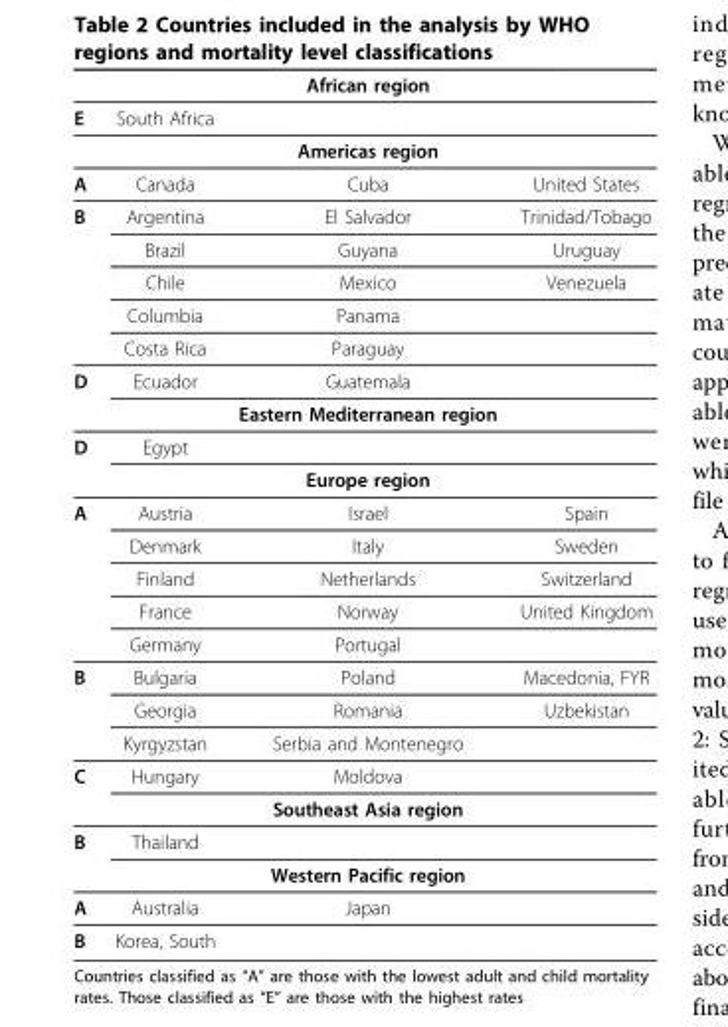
<table><thead><tr><td></td><td></td><td>African region</td><td></td></tr></thead><tbody><tr><td rowspan="2">E</td><td>South Africa</td><td></td><td></td></tr><tr><td></td><td>Americas region</td><td></td></tr><tr><td>A</td><td>Canada</td><td>Cuba</td><td>United States</td></tr><tr><td rowspan="5">B</td><td>Argentina</td><td>El Salvador</td><td>Trinidad/Tobago</td></tr><tr><td>Brazil</td><td>Guyana</td><td>Uruguay</td></tr><tr><td>Chile</td><td>Mexico</td><td>Venezuela</td></tr><tr><td>Columbia</td><td>Panama</td><td></td></tr><tr><td>Costa Rica</td><td>Paraguay</td><td></td></tr><tr><td rowspan="2">D</td><td>Ecuador</td><td>Guatemala</td><td></td></tr><tr><td></td><td>Eastern Mediterranean region</td><td></td></tr><tr><td rowspan="2">D</td><td>Egypt</td><td></td><td></td></tr><tr><td></td><td>Europe region</td><td></td></tr><tr><td rowspan="5">A</td><td>Austria</td><td>Israel</td><td>Spain</td></tr><tr><td>Denmark</td><td>Italy</td><td>Sweden</td></tr><tr><td>Finland</td><td>Netherlands</td><td>Switzerland</td></tr><tr><td>France</td><td>Norway</td><td>United Kingdom</td></tr><tr><td>Germany</td><td>Portugal</td><td></td></tr><tr><td rowspan="3">B</td><td>Bulgaria</td><td>Poland</td><td>Macedonia, FYR</td></tr><tr><td>Georgia</td><td>Romania</td><td>Uzbekistan</td></tr><tr><td>Kyrgyzstan</td><td>Serbia and Montenegro</td><td></td></tr><tr><td rowspan="2">C</td><td>Hungary</td><td>Moldova</td><td></td></tr><tr><td></td><td>Southeast Asia region</td><td></td></tr><tr><td rowspan="2">B</td><td>Thailand</td><td></td><td></td></tr><tr><td></td><td>Western Pacific region</td><td></td></tr><tr><td>A</td><td>Australia</td><td>Japan</td><td></td></tr><tr><td>B</td><td>Korea, South</td><td></td><td></td></tr></tbody></table>